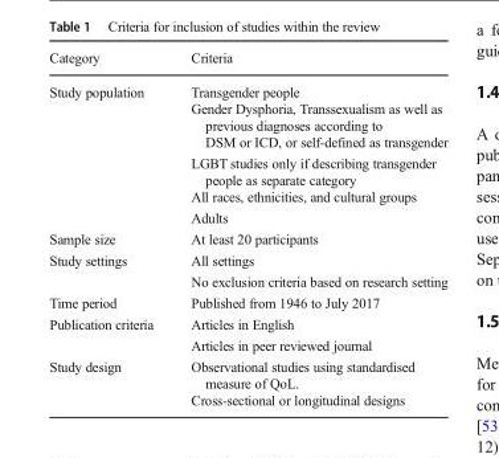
<table><thead><tr><td>Category</td><td>Criteria</td></tr></thead><tbody><tr><td rowspan="3">Study population</td><td>Transgender people Gender Dysphoria, Transsexualism as well as previous diagnoses according to DSM or ICD, or self-defined as transgender</td></tr><tr><td>LGBT studies only if describing transgender people as separate category All races, ethnicities, and cultural groups</td></tr><tr><td>Adults</td></tr><tr><td>Sample size</td><td>At least 20 participants</td></tr><tr><td rowspan="2">Study settings</td><td>All settings</td></tr><tr><td>No exclusion criteria based on research setting</td></tr><tr><td>Time period</td><td>Published from 1946 to July 2017</td></tr><tr><td rowspan="2">Publication criteria</td><td>Articles in English</td></tr><tr><td>Articles in peer reviewed journal</td></tr><tr><td>Study design</td><td>Observational studies using standardised measure of QoL. Cross-sectional or longitudinal designs</td></tr></tbody></table>